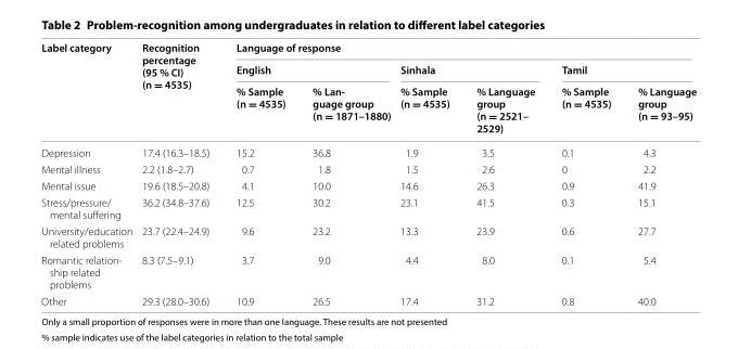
<table><thead><tr><td rowspan="3">Label category</td><td rowspan="3">Recognition percentage (95 % CI) (n = 4535)</td><td colspan="6">Language of response</td></tr><tr><td colspan="2">English</td><td colspan="2">Sinhala</td><td colspan="2">Tamil</td></tr><tr><td>% Sample (n = 4535)</td><td>% Lan‑ guage group (n = 1871–1880)</td><td>% Sample (n = 4535)</td><td>% Language group (n = 2521– 2529)</td><td>% Sample (n = 4535)</td><td>% Language group (n = 93–95)</td></tr></thead><tbody><tr><td>Depression</td><td>17.4 (16.3–18.5)</td><td>15.2</td><td>36.8</td><td>1.9</td><td>3.5</td><td>0.1</td><td>4.3</td></tr><tr><td>Mental illness</td><td>2.2 (1.8–2.7)</td><td>0.7</td><td>1.8</td><td>1.5</td><td>2.6</td><td>0</td><td>2.2</td></tr><tr><td>Mental issue</td><td>19.6 (18.5–20.8)</td><td>4.1</td><td>10.0</td><td>14.6</td><td>26.3</td><td>0.9</td><td>41.9</td></tr><tr><td>Stress/pressure/ mental suffering</td><td>36.2 (34.8–37.6)</td><td>12.5</td><td>30.2</td><td>23.1</td><td>41.5</td><td>0.3</td><td>15.1</td></tr><tr><td>University/education related problems</td><td>23.7 (22.4–24.9)</td><td>9.6</td><td>23.2</td><td>13.3</td><td>23.9</td><td>0.6</td><td>27.7</td></tr><tr><td>Romantic relation- ship related problems</td><td>8.3 (7.5–9.1)</td><td>3.7</td><td>9.0</td><td>4.4</td><td>8.0</td><td>0.1</td><td>5.4</td></tr><tr><td>Other</td><td>29.3 (28.0–30.6)</td><td>10.9</td><td>26.5</td><td>17.4</td><td>31.2</td><td>0.8</td><td>40.0</td></tr></tbody></table>